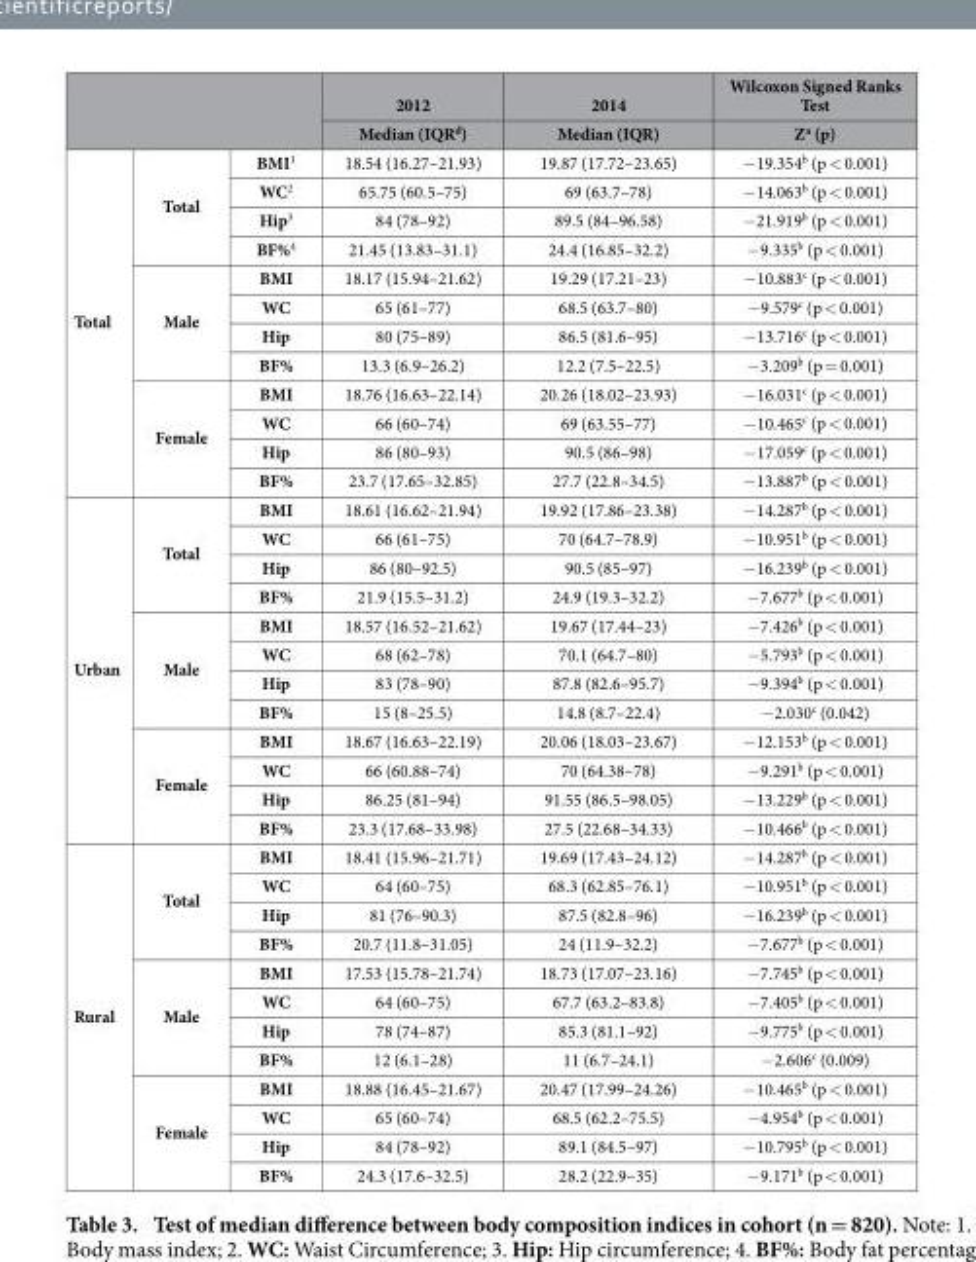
<table><thead><tr><td rowspan="2"></td><td rowspan="2"></td><td rowspan="2"></td><td rowspan="2">2012 Median (IQR<sup>d</sup>)</td><td rowspan="2">2014 Median (IQR)</td><td rowspan="2">Wilcoxon Signed Ranks Test Z<sup>a</sup> (p)</td></tr><tr></tr></thead><tbody><tr><td rowspan="12">Total</td><td rowspan="4">Total</td><td>BMI<sup>1</sup></td><td>18.54 (16.27–21.93)</td><td>19.87 (17.72–23.65)</td><td>− 19.354<sup>b</sup> (p &lt; 0.001)</td></tr><tr><td>WC<sup>2</sup></td><td>65.75 (60.5–75)</td><td>69 (63.7–78)</td><td>− 14.063<sup>b</sup> (p &lt; 0.001)</td></tr><tr><td>Hip<sup>3</sup></td><td>84 (78–92)</td><td>89.5 (84–96.58)</td><td>− 21.919<sup>b</sup> (p &lt; 0.001)</td></tr><tr><td>BF%<sup>4</sup></td><td>21.45 (13.83–31.1)</td><td>24.4 (16.85–32.2)</td><td>− 9.335<sup>b</sup> (p &lt; 0.001)</td></tr><tr><td rowspan="4">Male</td><td>BMI</td><td>18.17 (15.94–21.62)</td><td>19.29 (17.21–23)</td><td>− 10.883<sup>c</sup> (p &lt; 0.001)</td></tr><tr><td>WC</td><td>65 (61–77)</td><td>68.5 (63.7–80)</td><td>− 9.579<sup>c</sup> (p &lt; 0.001)</td></tr><tr><td>Hip</td><td>80 (75–89)</td><td>86.5 (81.6–95)</td><td>− 13.716<sup>c</sup> (p &lt; 0.001)</td></tr><tr><td>BF%</td><td>13.3 (6.9–26.2)</td><td>12.2 (7.5–22.5)</td><td>− 3.209<sup>b</sup> (p = 0.001)</td></tr><tr><td rowspan="4">Female</td><td>BMI</td><td>18.76 (16.63–22.14)</td><td>20.26 (18.02–23.93)</td><td>− 16.031<sup>c</sup> (p &lt; 0.001)</td></tr><tr><td>WC</td><td>66 (60–74)</td><td>69 (63.55–77)</td><td>− 10.465<sup>c</sup> (p &lt; 0.001)</td></tr><tr><td>Hip</td><td>86 (80–93)</td><td>90.5 (86–98)</td><td>− 17.059<sup>c</sup> (p &lt; 0.001)</td></tr><tr><td>BF%</td><td>23.7 (17.65–32.85)</td><td>27.7 (22.8–34.5)</td><td>− 13.887<sup>b</sup> (p &lt; 0.001)</td></tr><tr><td rowspan="12">Urban</td><td rowspan="4">Total</td><td>BMI</td><td>18.61 (16.62–21.94)</td><td>19.92 (17.86–23.38)</td><td>− 14.287<sup>b</sup> (p &lt; 0.001)</td></tr><tr><td>WC</td><td>66 (61–75)</td><td>70 (64.7–78.9)</td><td>− 10.951<sup>b</sup> (p &lt; 0.001)</td></tr><tr><td>Hip</td><td>86 (80–92.5)</td><td>90.5 (85–97)</td><td>− 16.239<sup>b</sup> (p &lt; 0.001)</td></tr><tr><td>BF%</td><td>21.9 (15.5–31.2)</td><td>24.9 (19.3–32.2)</td><td>− 7.677<sup>b</sup> (p &lt; 0.001)</td></tr><tr><td rowspan="4">Male</td><td>BMI</td><td>18.57 (16.52–21.62)</td><td>19.67 (17.44–23)</td><td>− 7.426<sup>b</sup> (p &lt; 0.001)</td></tr><tr><td>WC</td><td>68 (62–78)</td><td>70.1 (64.7–80)</td><td>− 5.793<sup>b</sup> (p &lt; 0.001)</td></tr><tr><td>Hip</td><td>83 (78–90)</td><td>87.8 (82.6–95.7)</td><td>− 9.394<sup>b</sup> (p &lt; 0.001)</td></tr><tr><td>BF%</td><td>15 (8–25.5)</td><td>14.8 (8.7–22.4)</td><td>− 2.030<sup>c</sup> (0.042)</td></tr><tr><td rowspan="4">Female</td><td>BMI</td><td>18.67 (16.63–22.19)</td><td>20.06 (18.03–23.67)</td><td>− 12.153<sup>b</sup> (p &lt; 0.001)</td></tr><tr><td>WC</td><td>66 (60.88–74)</td><td>70 (64.38–78)</td><td>− 9.291<sup>b</sup> (p &lt; 0.001)</td></tr><tr><td>Hip</td><td>86.25 (81–94)</td><td>91.55 (86.5–98.05)</td><td>− 13.229<sup>b</sup> (p &lt; 0.001)</td></tr><tr><td>BF%</td><td>23.3 (17.68–33.98)</td><td>27.5 (22.68–34.33)</td><td>− 10.466<sup>b</sup> (p &lt; 0.001)</td></tr><tr><td rowspan="12">Rural</td><td rowspan="4">Total</td><td>BMI</td><td>18.41 (15.96–21.71)</td><td>19.69 (17.43–24.12)</td><td>− 14.287<sup>b</sup> (p &lt; 0.001)</td></tr><tr><td>WC</td><td>64 (60–75)</td><td>68.3 (62.85–76.1)</td><td>− 10.951<sup>b</sup> (p &lt; 0.001)</td></tr><tr><td>Hip</td><td>81 (76–90.3)</td><td>87.5 (82.8–96)</td><td>− 16.239<sup>b</sup> (p &lt; 0.001)</td></tr><tr><td>BF%</td><td>20.7 (11.8–31.05)</td><td>24 (11.9–32.2)</td><td>− 7.677<sup>b</sup> (p &lt; 0.001)</td></tr><tr><td rowspan="4">Male</td><td>BMI</td><td>17.53 (15.78–21.74)</td><td>18.73 (17.07–23.16)</td><td>− 7.745<sup>b</sup> (p &lt; 0.001)</td></tr><tr><td>WC</td><td>64 (60–75)</td><td>67.7 (63.2–83.8)</td><td>− 7.405<sup>b</sup> (p &lt; 0.001)</td></tr><tr><td>Hip</td><td>78 (74–87)</td><td>85.3 (81.1–92)</td><td>− 9.775<sup>b</sup> (p &lt; 0.001)</td></tr><tr><td>BF%</td><td>12 (6.1–28)</td><td>11 (6.7–24.1)</td><td>− 2.606<sup>c</sup> (0.009)</td></tr><tr><td rowspan="4">Female</td><td>BMI</td><td>18.88 (16.45–21.67)</td><td>20.47 (17.99–24.26)</td><td>− 10.465<sup>b</sup> (p &lt; 0.001)</td></tr><tr><td>WC</td><td>65 (60–74)</td><td>68.5 (62.2–75.5)</td><td>− 4.954<sup>b</sup> (p &lt; 0.001)</td></tr><tr><td>Hip</td><td>84 (78–92)</td><td>89.1 (84.5–97)</td><td>− 10.795<sup>b</sup> (p &lt; 0.001)</td></tr><tr><td>BF%</td><td>24.3 (17.6–32.5)</td><td>28.2 (22.9–35)</td><td>− 9.171<sup>b</sup> (p &lt; 0.001)</td></tr></tbody></table>